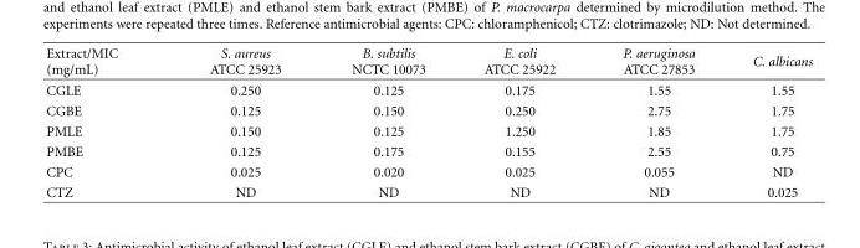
<table><thead><tr><td>Extract/MIC (mg/mL)</td><td>S. aureus ATCC 25923</td><td>B. subtilis NCTC 10073</td><td>E. coli ATCC 25922</td><td>P. aeruginosa ATCC 27853</td><td>C. albicans</td></tr></thead><tbody><tr><td>CGLE</td><td>0.250</td><td>0.125</td><td>0.175</td><td>1.55</td><td>1.55</td></tr><tr><td>CGBE</td><td>0.125</td><td>0.150</td><td>0.250</td><td>2.75</td><td>1.75</td></tr><tr><td>PMLE</td><td>0.150</td><td>0.125</td><td>1.250</td><td>1.85</td><td>1.75</td></tr><tr><td>PMBE</td><td>0.125</td><td>0.175</td><td>0.155</td><td>2.55</td><td>0.75</td></tr><tr><td>CPC</td><td>0.025</td><td>0.020</td><td>0.025</td><td>0.055</td><td>ND</td></tr><tr><td>CTZ</td><td>ND</td><td>ND</td><td>ND</td><td>ND</td><td>0.025</td></tr></tbody></table>